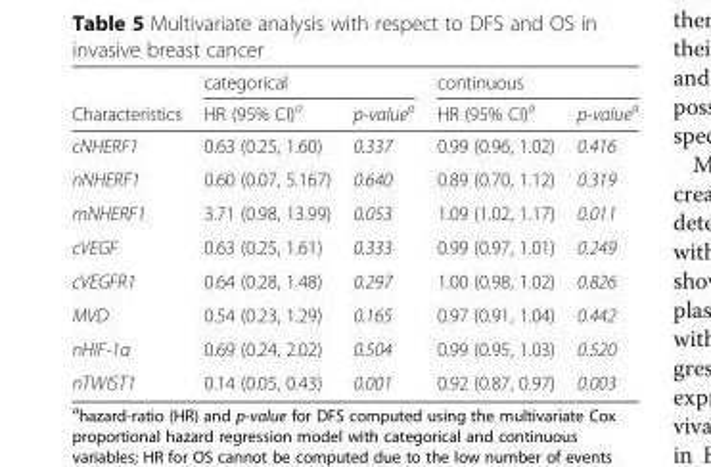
<table><thead><tr><td rowspan="2">Characteristics</td><td colspan="2">categorical</td><td colspan="2">continuous</td></tr><tr><td>HR (95% CI)<sup>a</sup></td><td>p-value<sup>a</sup></td><td>HR (95% CI)<sup>a</sup></td><td>p-value<sup>a</sup></td></tr></thead><tbody><tr><td>cNHERF1</td><td>0.63 (0.25, 1.60)</td><td>0.337</td><td>0.99 (0.96, 1.02)</td><td>0.416</td></tr><tr><td>nNHERF1</td><td>0.60 (0.07, 5.167)</td><td>0.640</td><td>0.89 (0.70, 1.12)</td><td>0.319</td></tr><tr><td>mNHERF1</td><td>3.71 (0.98, 13.99)</td><td>0.053</td><td>1.09 (1.02, 1.17)</td><td>0.011</td></tr><tr><td>cVEGF</td><td>0.63 (0.25, 1.61)</td><td>0.333</td><td>0.99 (0.97, 1.01)</td><td>0.249</td></tr><tr><td>cVEGFR1</td><td>0.64 (0.28, 1.48)</td><td>0.297</td><td>1.00 (0.98, 1.02)</td><td>0.826</td></tr><tr><td>MVD</td><td>0.54 (0.23, 1.29)</td><td>0.165</td><td>0.97 (0.91, 1.04)</td><td>0.442</td></tr><tr><td>nHIF-1α</td><td>0.69 (0.24, 2.02)</td><td>0.504</td><td>0.99 (0.95, 1.03)</td><td>0.520</td></tr><tr><td>nTWIST1</td><td>0.14 (0.05, 0.43)</td><td>0.001</td><td>0.92 (0.87, 0.97)</td><td>0.003</td></tr></tbody></table>